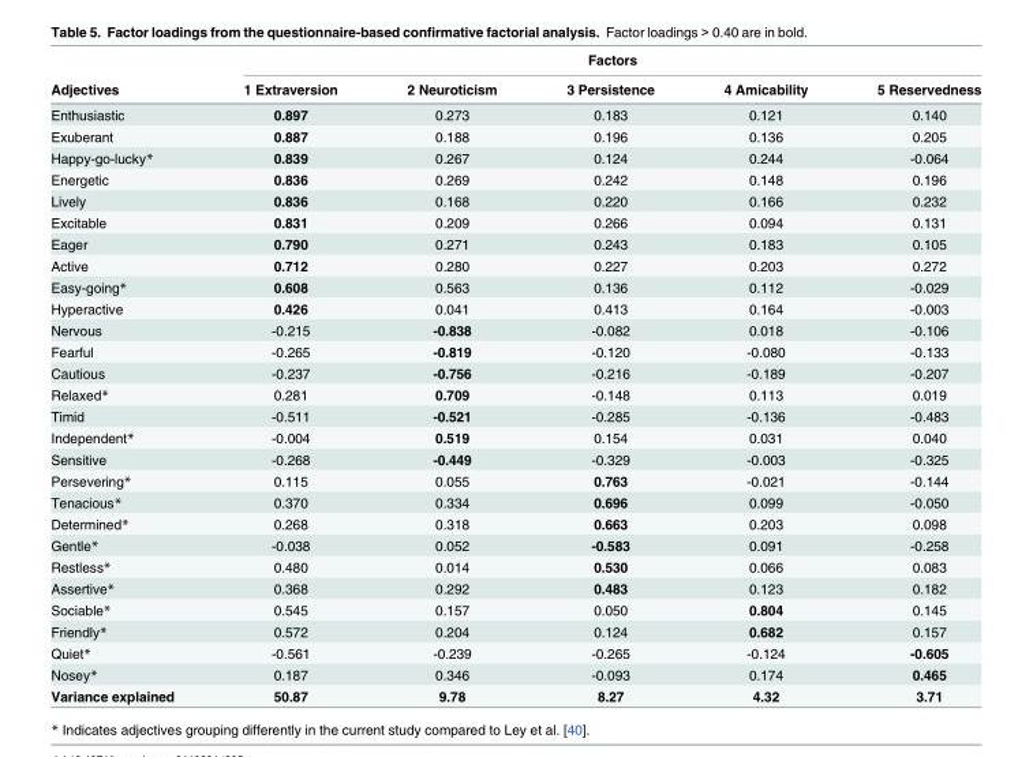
<table><thead><tr><td rowspan="2">Adjectives</td><td colspan="5">Factors</td></tr><tr><td>1 Extraversion</td><td>2 Neuroticism</td><td>3 Persistence</td><td>4 Amicability</td><td>5 Reservedness</td></tr></thead><tbody><tr><td>Enthusiastic</td><td>0.897</td><td>0.273</td><td>0.183</td><td>0.121</td><td>0.140</td></tr><tr><td>Exuberant</td><td>0.887</td><td>0.188</td><td>0.196</td><td>0.136</td><td>0.205</td></tr><tr><td>Happy-go-lucky*</td><td>0.839</td><td>0.267</td><td>0.124</td><td>0.244</td><td>-0.064</td></tr><tr><td>Energetic</td><td>0.836</td><td>0.269</td><td>0.242</td><td>0.148</td><td>0.196</td></tr><tr><td>Lively</td><td>0.836</td><td>0.168</td><td>0.220</td><td>0.166</td><td>0.232</td></tr><tr><td>Excitable</td><td>0.831</td><td>0.209</td><td>0.266</td><td>0.094</td><td>0.131</td></tr><tr><td>Eager</td><td>0.790</td><td>0.271</td><td>0.243</td><td>0.183</td><td>0.105</td></tr><tr><td>Active</td><td>0.712</td><td>0.280</td><td>0.227</td><td>0.203</td><td>0.272</td></tr><tr><td>Easy-going*</td><td>0.608</td><td>0.563</td><td>0.136</td><td>0.112</td><td>-0.029</td></tr><tr><td>Hyperactive</td><td>0.426</td><td>0.041</td><td>0.413</td><td>0.164</td><td>-0.003</td></tr><tr><td>Nervous</td><td>-0.215</td><td>-0.838</td><td>-0.082</td><td>0.018</td><td>-0.106</td></tr><tr><td>Fearful</td><td>-0.265</td><td>-0.819</td><td>-0.120</td><td>-0.080</td><td>-0.133</td></tr><tr><td>Cautious</td><td>-0.237</td><td>-0.756</td><td>-0.216</td><td>-0.189</td><td>-0.207</td></tr><tr><td>Relaxed*</td><td>0.281</td><td>0.709</td><td>-0.148</td><td>0.113</td><td>0.019</td></tr><tr><td>Timid</td><td>-0.511</td><td>-0.521</td><td>-0.285</td><td>-0.136</td><td>-0.483</td></tr><tr><td>Independent*</td><td>-0.004</td><td>0.519</td><td>0.154</td><td>0.031</td><td>0.040</td></tr><tr><td>Sensitive</td><td>-0.268</td><td>-0.449</td><td>-0.329</td><td>-0.003</td><td>-0.325</td></tr><tr><td>Persevering*</td><td>0.115</td><td>0.055</td><td>0.763</td><td>-0.021</td><td>-0.144</td></tr><tr><td>Tenacious*</td><td>0.370</td><td>0.334</td><td>0.696</td><td>0.099</td><td>-0.050</td></tr><tr><td>Determined*</td><td>0.268</td><td>0.318</td><td>0.663</td><td>0.203</td><td>0.098</td></tr><tr><td>Gentle*</td><td>-0.038</td><td>0.052</td><td>-0.583</td><td>0.091</td><td>-0.258</td></tr><tr><td>Restless*</td><td>0.480</td><td>0.014</td><td>0.530</td><td>0.066</td><td>0.083</td></tr><tr><td>Assertive*</td><td>0.368</td><td>0.292</td><td>0.483</td><td>0.123</td><td>0.182</td></tr><tr><td>Sociable*</td><td>0.545</td><td>0.157</td><td>0.050</td><td>0.804</td><td>0.145</td></tr><tr><td>Friendly*</td><td>0.572</td><td>0.204</td><td>0.124</td><td>0.682</td><td>0.157</td></tr><tr><td>Quiet*</td><td>-0.561</td><td>-0.239</td><td>-0.265</td><td>-0.124</td><td>-0.605</td></tr><tr><td>Nosey*</td><td>0.187</td><td>0.346</td><td>-0.093</td><td>0.174</td><td>0.465</td></tr><tr><td>Variance explained</td><td>50.87</td><td>9.78</td><td>8.27</td><td>4.32</td><td>3.71</td></tr></tbody></table>